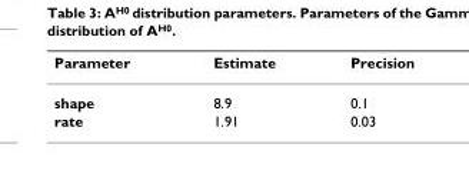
<table><thead><tr><td>Parameter</td><td>Estimate</td><td>Precision</td></tr></thead><tbody><tr><td>shape</td><td>8.9</td><td>0.1</td></tr><tr><td>rate</td><td>1.91</td><td>0.03</td></tr></tbody></table>